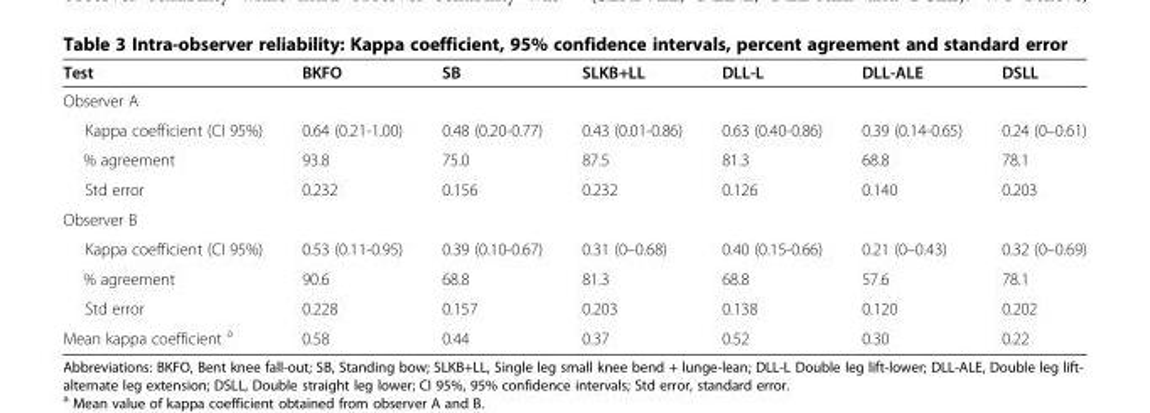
<table><thead><tr><td>Test</td><td>BKFO</td><td>SB</td><td>SLKB+LL</td><td>DLL-L</td><td>DLL-ALE</td><td>DSLL</td></tr></thead><tbody><tr><td colspan="7">Observer A</td></tr><tr><td>Kappa coefficient (CI 95%)</td><td>0.64 (0.21-1.00)</td><td>0.48 (0.20-0.77)</td><td>0.43 (0.01-0.86)</td><td>0.63 (0.40-0.86)</td><td>0.39 (0.14-0.65)</td><td>0.24 (0–0.61)</td></tr><tr><td>% agreement</td><td>93.8</td><td>75.0</td><td>87.5</td><td>81.3</td><td>68.8</td><td>78.1</td></tr><tr><td>Std error</td><td>0.232</td><td>0.156</td><td>0.232</td><td>0.126</td><td>0.140</td><td>0.203</td></tr><tr><td colspan="7">Observer B</td></tr><tr><td>Kappa coefficient (CI 95%)</td><td>0.53 (0.11-0.95)</td><td>0.39 (0.10-0.67)</td><td>0.31 (0–0.68)</td><td>0.40 (0.15-0.66)</td><td>0.21 (0–0.43)</td><td>0.32 (0–0.69)</td></tr><tr><td>% agreement</td><td>90.6</td><td>68.8</td><td>81.3</td><td>68.8</td><td>57.6</td><td>78.1</td></tr><tr><td>Std error</td><td>0.228</td><td>0.157</td><td>0.203</td><td>0.138</td><td>0.120</td><td>0.202</td></tr><tr><td>Mean kappa coefficient <sup>a</sup></td><td>0.58</td><td>0.44</td><td>0.37</td><td>0.52</td><td>0.30</td><td>0.22</td></tr></tbody></table>